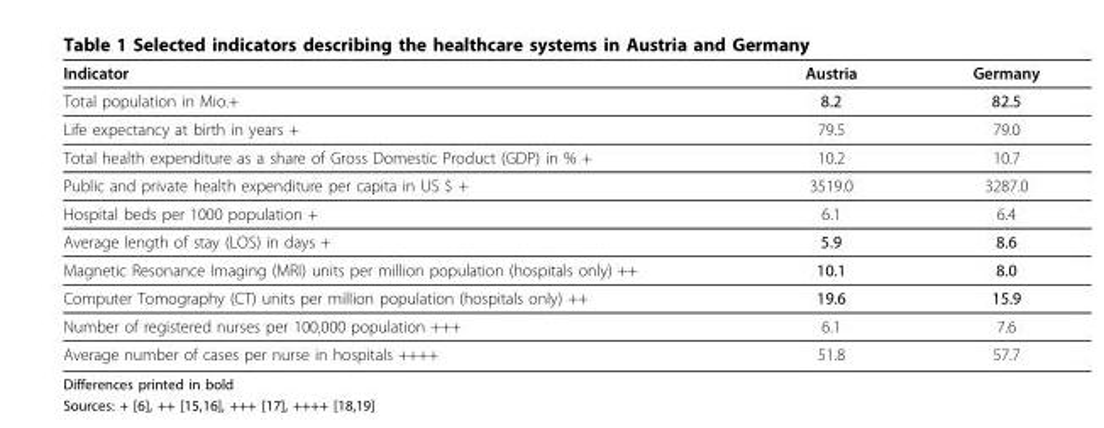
<table><thead><tr><td>Indicator</td><td>Austria</td><td>Germany</td></tr></thead><tbody><tr><td>Total population in Mio.+</td><td>8.2</td><td>82.5</td></tr><tr><td>Life expectancy at birth in years +</td><td>79.5</td><td>79.0</td></tr><tr><td>Total health expenditure as a share of Gross Domestic Product (GDP) in % +</td><td>10.2</td><td>10.7</td></tr><tr><td>Public and private health expenditure per capita in US $ +</td><td>3519.0</td><td>3287.0</td></tr><tr><td>Hospital beds per 1000 population +</td><td>6.1</td><td>6.4</td></tr><tr><td>Average length of stay (LOS) in days +</td><td>5.9</td><td>8.6</td></tr><tr><td>Magnetic Resonance Imaging (MRI) units per million population (hospitals only) ++</td><td>10.1</td><td>8.0</td></tr><tr><td>Computer Tomography (CT) units per million population (hospitals only) ++</td><td>19.6</td><td>15.9</td></tr><tr><td>Number of registered nurses per 100,000 population +++</td><td>6.1</td><td>7.6</td></tr><tr><td>Average number of cases per nurse in hospitals ++++</td><td>51.8</td><td>57.7</td></tr></tbody></table>